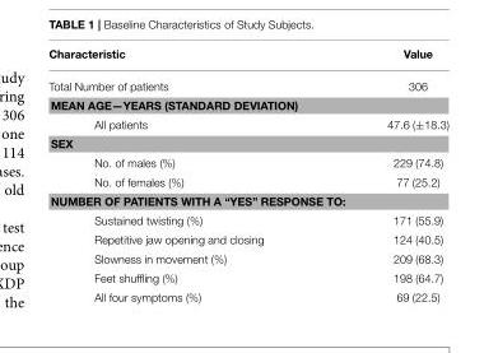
<table><thead><tr><td>Characteristic</td><td>Value</td></tr></thead><tbody><tr><td>Total Number of patients</td><td>306</td></tr><tr><td colspan="2">MEAN AGE—YEARS (STANDARD DEVIATION)</td></tr><tr><td>All patients</td><td>47.6 (±18.3)</td></tr><tr><td colspan="2">SEX</td></tr><tr><td>No. of males (%)</td><td>229 (74.8)</td></tr><tr><td>No. of females (%)</td><td>77 (25.2)</td></tr><tr><td colspan="2">NUMBER OF PATIENTS WITH A “YES” RESPONSE TO:</td></tr><tr><td>Sustained twisting (%)</td><td>171 (55.9)</td></tr><tr><td>Repetitive jaw opening and closing</td><td>124 (40.5)</td></tr><tr><td>Slowness in movement (%)</td><td>209 (68.3)</td></tr><tr><td>Feet shuffling (%)</td><td>198 (64.7)</td></tr><tr><td>All four symptoms (%)</td><td>69 (22.5)</td></tr></tbody></table>